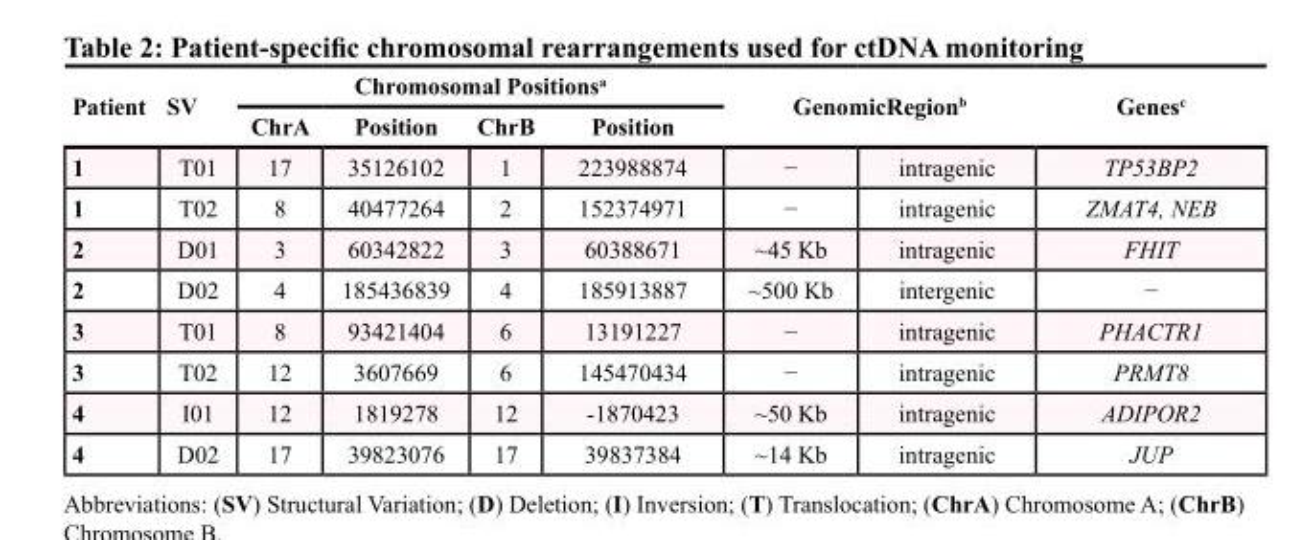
<table><thead><tr><td rowspan="3">Patient 1</td><td rowspan="3">SV T01</td><td colspan="4">Chromosomal Positions<sup>a</sup></td><td rowspan="2" colspan="2">GenomicRegion<sup>b</sup></td><td rowspan="3">Genes<sup>c</sup> TP53BP2</td></tr><tr><td rowspan="2">ChrA 17</td><td rowspan="2">Position 35126102</td><td rowspan="2">ChrB 1</td><td rowspan="2">Position 223988874</td></tr><tr><td>−</td><td>intragenic</td></tr></thead><tbody><tr><td>1</td><td>T02</td><td>8</td><td>40477264</td><td>2</td><td>152374971</td><td>−</td><td>intragenic</td><td>ZMAT4, NEB</td></tr><tr><td>2</td><td>D01</td><td>3</td><td>60342822</td><td>3</td><td>60388671</td><td>~45 Kb</td><td>intragenic</td><td>FHIT</td></tr><tr><td>2</td><td>D02</td><td>4</td><td>185436839</td><td>4</td><td>185913887</td><td>~500 Kb</td><td>intergenic</td><td>−</td></tr><tr><td>3</td><td>T01</td><td>8</td><td>93421404</td><td>6</td><td>13191227</td><td>−</td><td>intragenic</td><td>PHACTR1</td></tr><tr><td>3</td><td>T02</td><td>12</td><td>3607669</td><td>6</td><td>145470434</td><td>−</td><td>intragenic</td><td>PRMT8</td></tr><tr><td>4</td><td>I01</td><td>12</td><td>1819278</td><td>12</td><td>-1870423</td><td>~50 Kb</td><td>intragenic</td><td>ADIPOR2</td></tr><tr><td>4</td><td>D02</td><td>17</td><td>39823076</td><td>17</td><td>39837384</td><td>~14 Kb</td><td>intragenic</td><td>JUP</td></tr></tbody></table>